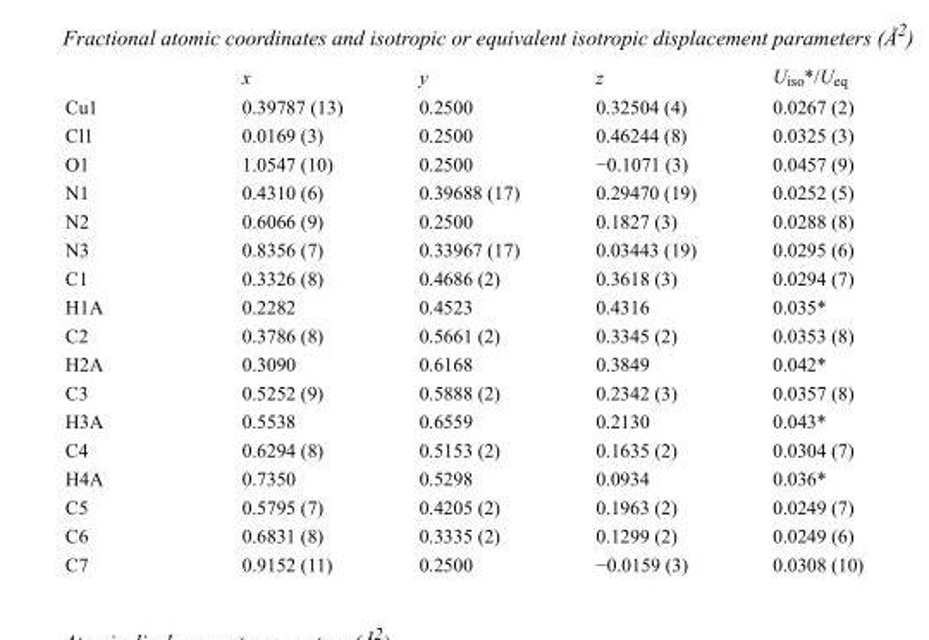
<table><thead><tr><td></td><td>x</td><td>y</td><td>z</td><td>U<sub>iso</sub>*/U<sub>eq</sub></td></tr></thead><tbody><tr><td>Cu1</td><td>0.39787 (13)</td><td>0.2500</td><td>0.32504 (4)</td><td>0.0267 (2)</td></tr><tr><td>Cl1</td><td>0.0169 (3)</td><td>0.2500</td><td>0.46244 (8)</td><td>0.0325 (3)</td></tr><tr><td>O1</td><td>1.0547 (10)</td><td>0.2500</td><td>−0.1071 (3)</td><td>0.0457 (9)</td></tr><tr><td>N1</td><td>0.4310 (6)</td><td>0.39688 (17)</td><td>0.29470 (19)</td><td>0.0252 (5)</td></tr><tr><td>N2</td><td>0.6066 (9)</td><td>0.2500</td><td>0.1827 (3)</td><td>0.0288 (8)</td></tr><tr><td>N3</td><td>0.8356 (7)</td><td>0.33967 (17)</td><td>0.03443 (19)</td><td>0.0295 (6)</td></tr><tr><td>C1</td><td>0.3326 (8)</td><td>0.4686 (2)</td><td>0.3618 (3)</td><td>0.0294 (7)</td></tr><tr><td>H1A</td><td>0.2282</td><td>0.4523</td><td>0.4316</td><td>0.035*</td></tr><tr><td>C2</td><td>0.3786 (8)</td><td>0.5661 (2)</td><td>0.3345 (2)</td><td>0.0353 (8)</td></tr><tr><td>H2A</td><td>0.3090</td><td>0.6168</td><td>0.3849</td><td>0.042*</td></tr><tr><td>C3</td><td>0.5252 (9)</td><td>0.5888 (2)</td><td>0.2342 (3)</td><td>0.0357 (8)</td></tr><tr><td>H3A</td><td>0.5538</td><td>0.6559</td><td>0.2130</td><td>0.043*</td></tr><tr><td>C4</td><td>0.6294 (8)</td><td>0.5153 (2)</td><td>0.1635 (2)</td><td>0.0304 (7)</td></tr><tr><td>H4A</td><td>0.7350</td><td>0.5298</td><td>0.0934</td><td>0.036*</td></tr><tr><td>C5</td><td>0.5795 (7)</td><td>0.4205 (2)</td><td>0.1963 (2)</td><td>0.0249 (7)</td></tr><tr><td>C6</td><td>0.6831 (8)</td><td>0.3335 (2)</td><td>0.1299 (2)</td><td>0.0249 (6)</td></tr><tr><td>C7</td><td>0.9152 (11)</td><td>0.2500</td><td>−0.0159 (3)</td><td>0.0308 (10)</td></tr></tbody></table>